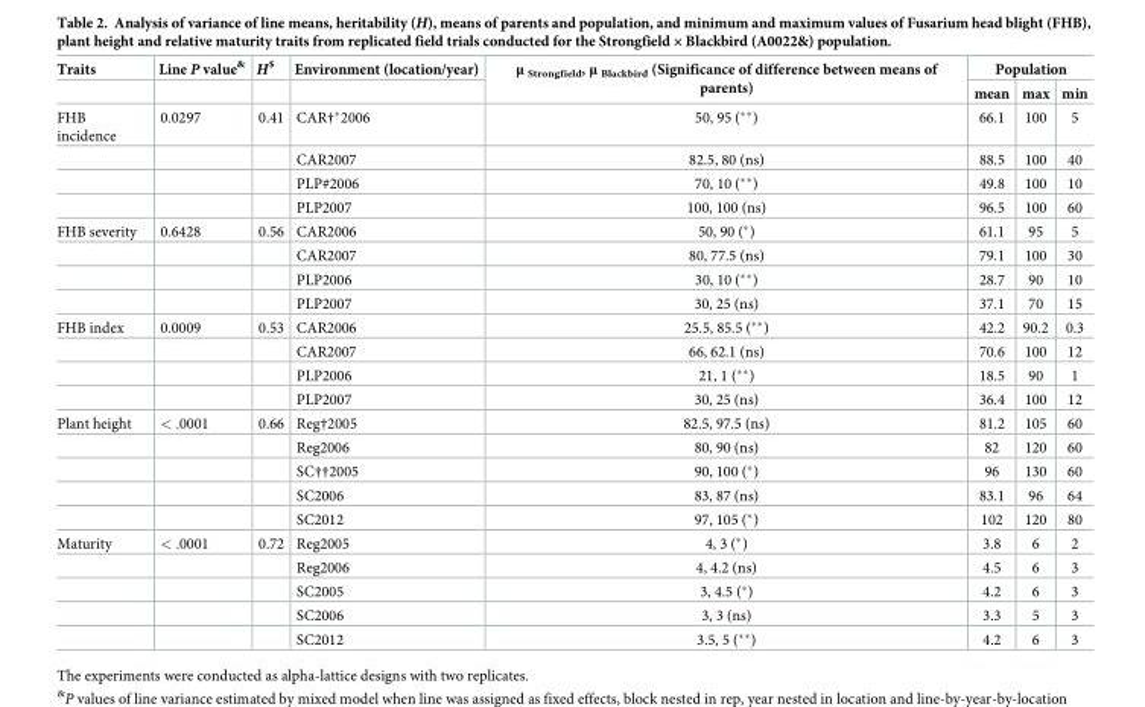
<table><thead><tr><td rowspan="2">Traits</td><td rowspan="2">Line P value<sup>&amp;</sup></td><td rowspan="2">H<sup>$</sup></td><td rowspan="2">Environment (location/year)</td><td rowspan="2">μ <sub>Strongfield</sub>, μ <sub>Blackbird</sub> (Significance of difference between means of parents)</td><td colspan="3">Population</td></tr><tr><td>mean</td><td>max</td><td>min</td></tr></thead><tbody><tr><td rowspan="4">FHB incidence</td><td>0.0297</td><td>0.41</td><td>CAR†*2006</td><td>50, 95 (**)</td><td>66.1</td><td>100</td><td>5</td></tr><tr><td></td><td></td><td>CAR2007</td><td>82.5, 80 (ns)</td><td>88.5</td><td>100</td><td>40</td></tr><tr><td></td><td></td><td>PLP#2006</td><td>70, 10 (**)</td><td>49.8</td><td>100</td><td>10</td></tr><tr><td></td><td></td><td>PLP2007</td><td>100, 100 (ns)</td><td>96.5</td><td>100</td><td>60</td></tr><tr><td rowspan="4">FHB severity</td><td>0.6428</td><td>0.56</td><td>CAR2006</td><td>50, 90 (*)</td><td>61.1</td><td>95</td><td>5</td></tr><tr><td></td><td></td><td>CAR2007</td><td>80, 77.5 (ns)</td><td>79.1</td><td>100</td><td>30</td></tr><tr><td></td><td></td><td>PLP2006</td><td>30, 10 (**)</td><td>28.7</td><td>90</td><td>10</td></tr><tr><td></td><td></td><td>PLP2007</td><td>30, 25 (ns)</td><td>37.1</td><td>70</td><td>15</td></tr><tr><td rowspan="4">FHB index</td><td>0.0009</td><td>0.53</td><td>CAR2006</td><td>25.5, 85.5 (**)</td><td>42.2</td><td>90.2</td><td>0.3</td></tr><tr><td></td><td></td><td>CAR2007</td><td>66, 62.1 (ns)</td><td>70.6</td><td>100</td><td>12</td></tr><tr><td></td><td></td><td>PLP2006</td><td>21, 1 (**)</td><td>18.5</td><td>90</td><td>1</td></tr><tr><td></td><td></td><td>PLP2007</td><td>30, 25 (ns)</td><td>36.4</td><td>100</td><td>12</td></tr><tr><td rowspan="5">Plant height</td><td>&lt; .0001</td><td>0.66</td><td>Reg†2005</td><td>82.5, 97.5 (ns)</td><td>81.2</td><td>105</td><td>60</td></tr><tr><td></td><td></td><td>Reg2006</td><td>80, 90 (ns)</td><td>82</td><td>120</td><td>60</td></tr><tr><td></td><td></td><td>SC††2005</td><td>90, 100 (*)</td><td>96</td><td>130</td><td>60</td></tr><tr><td></td><td></td><td>SC2006</td><td>83, 87 (ns)</td><td>83.1</td><td>96</td><td>64</td></tr><tr><td></td><td></td><td>SC2012</td><td>97, 105 (*)</td><td>102</td><td>120</td><td>80</td></tr><tr><td rowspan="5">Maturity</td><td>&lt; .0001</td><td>0.72</td><td>Reg2005</td><td>4, 3 (*)</td><td>3.8</td><td>6</td><td>2</td></tr><tr><td></td><td></td><td>Reg2006</td><td>4, 4.2 (ns)</td><td>4.5</td><td>6</td><td>3</td></tr><tr><td></td><td></td><td>SC2005</td><td>3, 4.5 (*)</td><td>4.2</td><td>6</td><td>3</td></tr><tr><td></td><td></td><td>SC2006</td><td>3, 3 (ns)</td><td>3.3</td><td>5</td><td>3</td></tr><tr><td></td><td></td><td>SC2012</td><td>3.5, 5 (**)</td><td>4.2</td><td>6</td><td>3</td></tr></tbody></table>